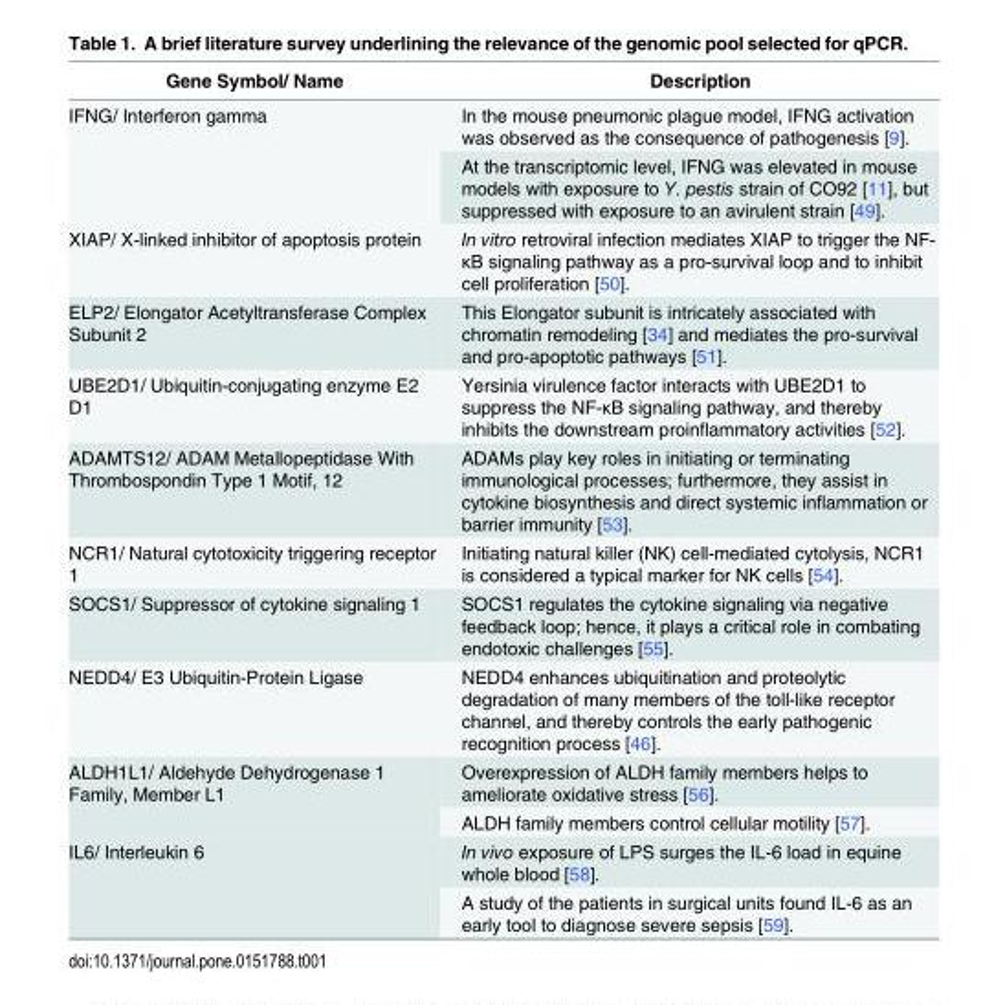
<table><thead><tr><td>Gene Symbol/ Name</td><td>Description</td></tr></thead><tbody><tr><td rowspan="2">IFNG/ Interferon gamma</td><td>In the mouse pneumonic plague model, IFNG activation was observed as the consequence of pathogenesis [9].</td></tr><tr><td>At the transcriptomic level, IFNG was elevated in mouse models with exposure to Y. pestis strain of CO92 [11], but suppressed with exposure to an avirulent strain [49].</td></tr><tr><td>XIAP/ X-linked inhibitor of apoptosis protein</td><td>In vitro retroviral infection mediates XIAP to trigger the NF- κB signaling pathway as a pro-survival loop and to inhibit cell proliferation [50].</td></tr><tr><td>ELP2/ Elongator Acetyltransferase Complex Subunit 2</td><td>This Elongator subunit is intricately associated with chromatin remodeling [34] and mediates the pro-survival and pro-apoptotic pathways [51].</td></tr><tr><td>UBE2D1/ Ubiquitin-conjugating enzyme E2 D1</td><td>Yersinia virulence factor interacts with UBE2D1 to suppress the NF-κB signaling pathway, and thereby inhibits the downstream proinflammatory activities [52].</td></tr><tr><td>ADAMTS12/ ADAM Metallopeptidase With Thrombospondin Type 1 Motif, 12</td><td>ADAMs play key roles in initiating or terminating immunological processes; furthermore, they assist in cytokine biosynthesis and direct systemic inflammation or barrier immunity [53].</td></tr><tr><td>NCR1/ Natural cytotoxicity triggering receptor 1</td><td>Initiating natural killer (NK) cell-mediated cytolysis, NCR1 is considered a typical marker for NK cells [54].</td></tr><tr><td>SOCS1/ Suppressor of cytokine signaling 1</td><td>SOCS1 regulates the cytokine signaling via negative feedback loop; hence, it plays a critical role in combating endotoxic challenges [55].</td></tr><tr><td>NEDD4/ E3 Ubiquitin-Protein Ligase</td><td>NEDD4 enhances ubiquitination and proteolytic degradation of many members of the toll-like receptor channel, and thereby controls the early pathogenic recognition process [46].</td></tr><tr><td rowspan="2">ALDH1L1/ Aldehyde Dehydrogenase 1 Family, Member L1</td><td>Overexpression of ALDH family members helps to ameliorate oxidative stress [56].</td></tr><tr><td>ALDH family members control cellular motility [57].</td></tr><tr><td rowspan="2">IL6/ Interleukin 6</td><td>In vivo exposure of LPS surges the IL-6 load in equine whole blood [58].</td></tr><tr><td>A study of the patients in surgical units found IL-6 as an early tool to diagnose severe sepsis [59].</td></tr></tbody></table>